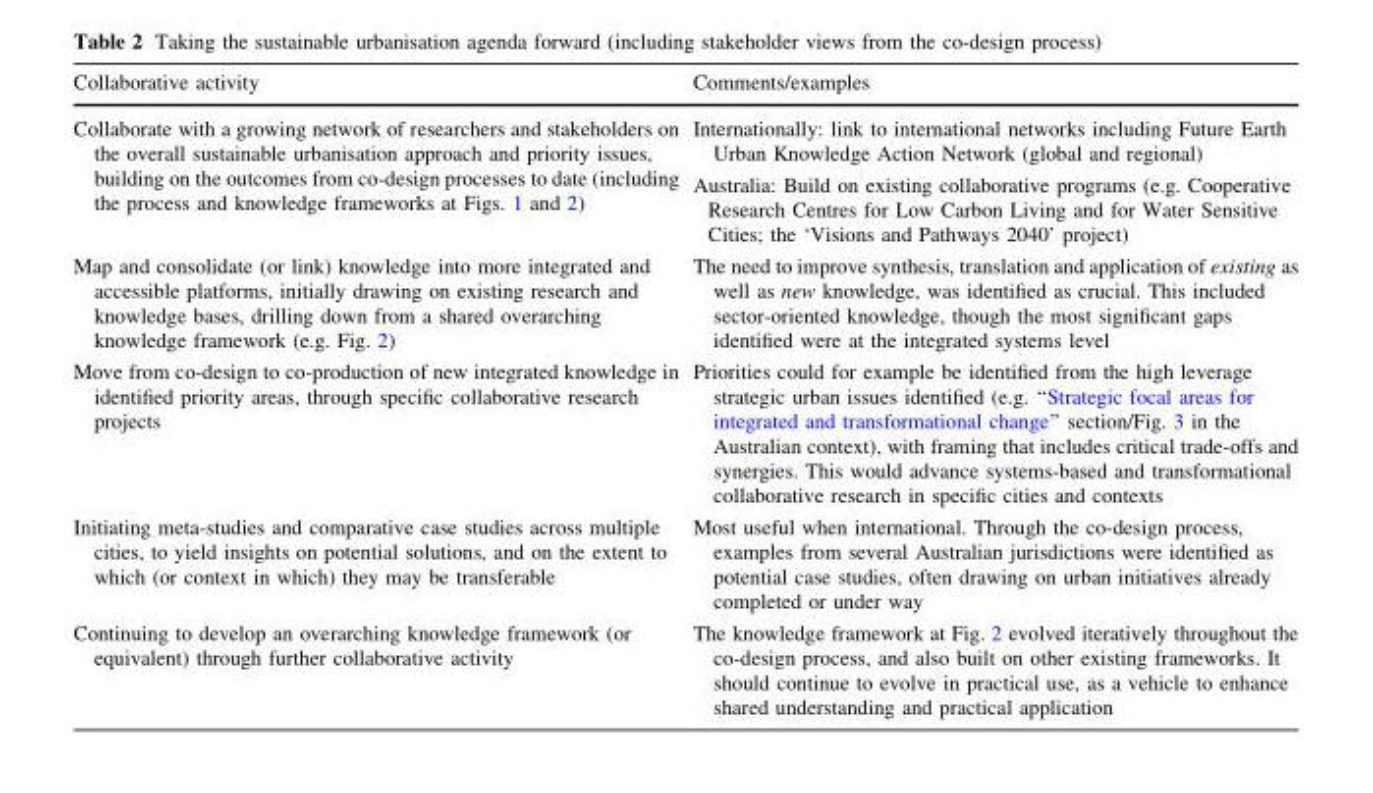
<table><thead><tr><td>Collaborative activity</td><td>Comments/examples</td></tr></thead><tbody><tr><td>Collaborate with a growing network of researchers and stakeholders on the overall sustainable urbanisation approach and priority issues, building on the outcomes from co-design processes to date (including the process and knowledge frameworks at Figs. 1 and 2)</td><td>Internationally: link to international networks including Future Earth Urban Knowledge Action Network (global and regional) Australia: Build on existing collaborative programs (e.g. Cooperative Research Centres for Low Carbon Living and for Water Sensitive Cities; the ‘Visions and Pathways 2040’ project)</td></tr><tr><td>Map and consolidate (or link) knowledge into more integrated and accessible platforms, initially drawing on existing research and knowledge bases, drilling down from a shared overarching knowledge framework (e.g. Fig. 2)</td><td>The need to improve synthesis, translation and application of existing as well as new knowledge, was identified as crucial. This included sector-oriented knowledge, though the most significant gaps identified were at the integrated systems level</td></tr><tr><td>Move from co-design to co-production of new integrated knowledge in identified priority areas, through specific collaborative research projects</td><td>Priorities could for example be identified from the high leverage strategic urban issues identified (e.g. ‘‘Strategic focal areas for integrated and transformational change’’ section/Fig. 3 in the Australian context), with framing that includes critical trade-offs and synergies. This would advance systems-based and transformational collaborative research in specific cities and contexts</td></tr><tr><td>Initiating meta-studies and comparative case studies across multiple cities, to yield insights on potential solutions, and on the extent to which (or context in which) they may be transferable</td><td>Most useful when international. Through the co-design process, examples from several Australian jurisdictions were identified as potential case studies, often drawing on urban initiatives already completed or under way</td></tr><tr><td>Continuing to develop an overarching knowledge framework (or equivalent) through further collaborative activity</td><td>The knowledge framework at Fig. 2 evolved iteratively throughout the co-design process, and also built on other existing frameworks. It should continue to evolve in practical use, as a vehicle to enhance shared understanding and practical application</td></tr></tbody></table>